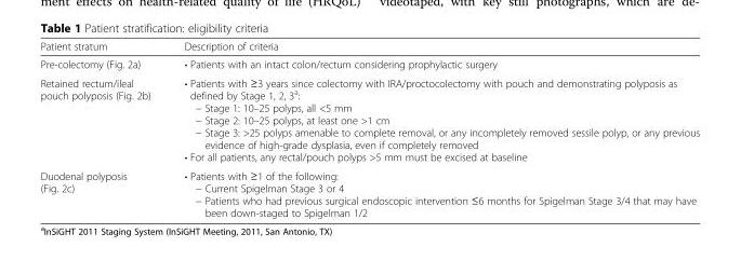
<table><thead><tr><td>Patient stratum</td><td>Description of criteria</td></tr></thead><tbody><tr><td>Pre-colectomy (Fig. 2a)</td><td>• Patients with an intact colon/rectum considering prophylactic surgery</td></tr><tr><td>Retained rectum/ileal pouch polyposis (Fig. 2b)</td><td>• Patients with ≥3 years since colectomy with IRA/proctocolectomy with pouch and demonstrating polyposis as defined by Stage 1, 2, 3<sup>a</sup>: − Stage 1: 10–25 polyps, all &lt;5 mm − Stage 2: 10–25 polyps, at least one &gt;1 cm − Stage 3: &gt;25 polyps amenable to complete removal, or any incompletely removed sessile polyp, or any previous evidence of high-grade dysplasia, even if completely removed • For all patients, any rectal/pouch polyps &gt;5 mm must be excised at baseline</td></tr><tr><td>Duodenal polyposis (Fig. 2c)</td><td>• Patients with ≥1 of the following: − Current Spigelman Stage 3 or 4 − Patients who had previous surgical endoscopic intervention ≤6 months for Spigelman Stage 3/4 that may have been down-staged to Spigelman 1/2</td></tr></tbody></table>